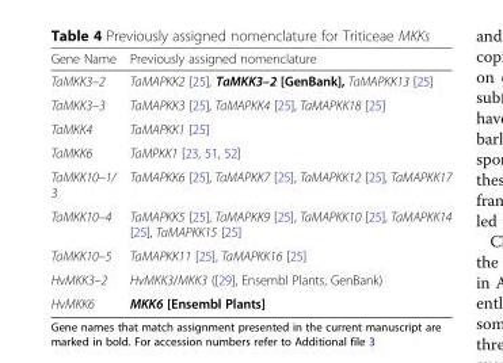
<table><thead><tr><td>Gene Name</td><td>Previously assigned nomenclature</td></tr></thead><tbody><tr><td>TaMKK3–2</td><td>TaMAPKK2 [25], TaMKK3–2 [GenBank], TaMAPKK13 [25]</td></tr><tr><td>TaMKK3–3</td><td>TaMAPKK3 [25], TaMAPKK4 [25], TaMAPKK18 [25]</td></tr><tr><td>TaMKK4</td><td>TaMAPKK1 [25]</td></tr><tr><td>TaMKK6</td><td>TaMPKK1 [23, 51, 52]</td></tr><tr><td>TaMKK10–1/ 3</td><td>TaMAPKK6 [25], TaMAPKK7 [25], TaMAPKK12 [25], TaMAPKK17</td></tr><tr><td>TaMKK10–4</td><td>TaMAPKK5 [25], TaMAPKK9 [25], TaMAPKK10 [25], TaMAPKK14 [25], TaMAPKK15 [25]</td></tr><tr><td>TaMKK10–5</td><td>TaMAPKK11 [25], TaMAPKK16 [25]</td></tr><tr><td>HvMKK3–2</td><td>HvMKK3/MKK3 ([29], Ensembl Plants, GenBank)</td></tr><tr><td>HvMKK6</td><td>MKK6 [Ensembl Plants]</td></tr></tbody></table>